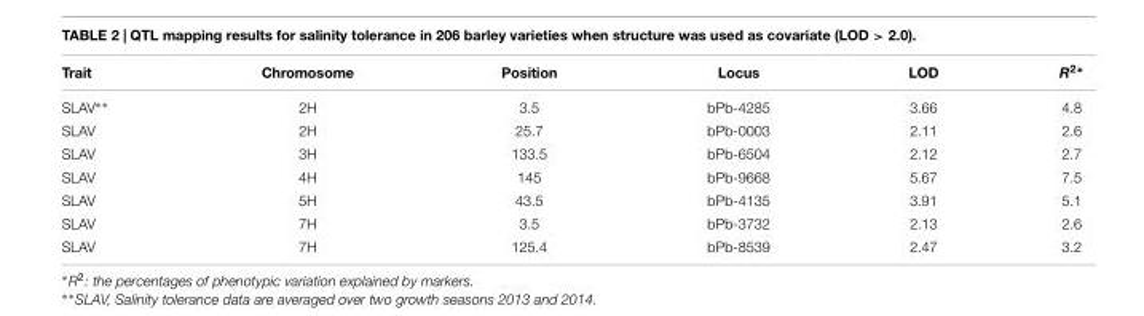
<table><thead><tr><td>Trait</td><td>Chromosome</td><td>Position</td><td>Locus</td><td>LOD</td><td>R<sup>2∗</sup></td></tr></thead><tbody><tr><td>SLAV∗∗</td><td>2H</td><td>3.5</td><td>bPb-4285</td><td>3.66</td><td>4.8</td></tr><tr><td>SLAV</td><td>2H</td><td>25.7</td><td>bPb-0003</td><td>2.11</td><td>2.6</td></tr><tr><td>SLAV</td><td>3H</td><td>133.5</td><td>bPb-6504</td><td>2.12</td><td>2.7</td></tr><tr><td>SLAV</td><td>4H</td><td>145</td><td>bPb-9668</td><td>5.67</td><td>7.5</td></tr><tr><td>SLAV</td><td>5H</td><td>43.5</td><td>bPb-4135</td><td>3.91</td><td>5.1</td></tr><tr><td>SLAV</td><td>7H</td><td>3.5</td><td>bPb-3732</td><td>2.13</td><td>2.6</td></tr><tr><td>SLAV</td><td>7H</td><td>125.4</td><td>bPb-8539</td><td>2.47</td><td>3.2</td></tr></tbody></table>